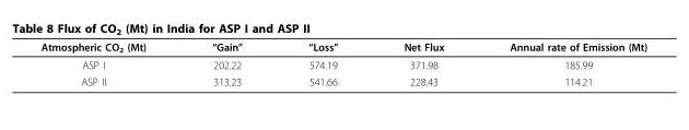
<table><thead><tr><td>Atmospheric CO<sub>2</sub> (Mt)</td><td>“Gain”</td><td>“Loss”</td><td>Net Flux</td><td>Annual rate of Emission (Mt)</td></tr></thead><tbody><tr><td>ASP I</td><td>202.22</td><td>574.19</td><td>371.98</td><td>185.99</td></tr><tr><td>ASP II</td><td>313.23</td><td>541.66</td><td>228.43</td><td>114.21</td></tr></tbody></table>